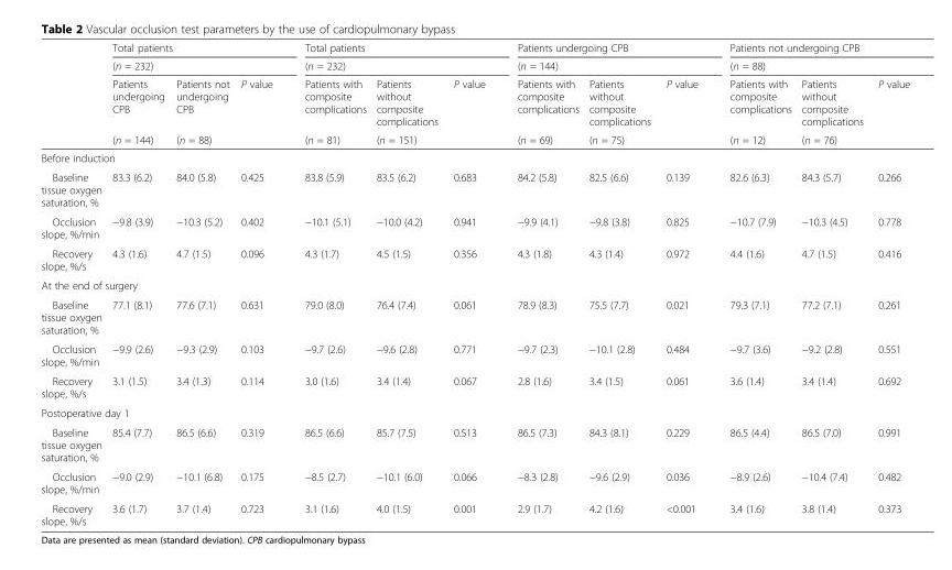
<table><thead><tr><td rowspan="4"></td><td rowspan="2" colspan="3">Total patients (n = 232)</td><td rowspan="2" colspan="3">Total patients (n = 232)</td><td rowspan="2" colspan="3">Patients undergoing CPB (n = 144)</td><td rowspan="2" colspan="3">Patients not undergoing CPB (n = 88)</td></tr><tr></tr><tr><td rowspan="2">Patients undergoing CPB (n = 144)</td><td rowspan="2">Patients not undergoing CPB (n = 88)</td><td rowspan="2">P value</td><td rowspan="2">Patients with composite complications (n = 81)</td><td rowspan="2">Patients without composite complications (n = 151)</td><td rowspan="2">P value</td><td rowspan="2">Patients with composite complications (n = 69)</td><td rowspan="2">Patients without composite complications (n = 75)</td><td rowspan="2">P value</td><td rowspan="2">Patients with composite complications (n = 12)</td><td rowspan="2">Patients without composite complications (n = 76)</td><td rowspan="2">P value</td></tr><tr></tr></thead><tbody><tr><td colspan="13">Before induction</td></tr><tr><td>Baseline tissue oxygen saturation, %</td><td>83.3 (6.2)</td><td>84.0 (5.8)</td><td>0.425</td><td>83.8 (5.9)</td><td>83.5 (6.2)</td><td>0.683</td><td>84.2 (5.8)</td><td>82.5 (6.6)</td><td>0.139</td><td>82.6 (6.3)</td><td>84.3 (5.7)</td><td>0.266</td></tr><tr><td>Occlusion slope, %/min</td><td>−9.8 (3.9)</td><td>−10.3 (5.2)</td><td>0.402</td><td>−10.1 (5.1)</td><td>−10.0 (4.2)</td><td>0.941</td><td>−9.9 (4.1)</td><td>−9.8 (3.8)</td><td>0.825</td><td>−10.7 (7.9)</td><td>−10.3 (4.5)</td><td>0.778</td></tr><tr><td>Recovery slope, %/s</td><td>4.3 (1.6)</td><td>4.7 (1.5)</td><td>0.096</td><td>4.3 (1.7)</td><td>4.5 (1.5)</td><td>0.356</td><td>4.3 (1.8)</td><td>4.3 (1.4)</td><td>0.972</td><td>4.4 (1.6)</td><td>4.7 (1.5)</td><td>0.416</td></tr><tr><td colspan="13">At the end of surgery</td></tr><tr><td>Baseline tissue oxygen saturation, %</td><td>77.1 (8.1)</td><td>77.6 (7.1)</td><td>0.631</td><td>79.0 (8.0)</td><td>76.4 (7.4)</td><td>0.061</td><td>78.9 (8.3)</td><td>75.5 (7.7)</td><td>0.021</td><td>79.3 (7.1)</td><td>77.2 (7.1)</td><td>0.261</td></tr><tr><td>Occlusion slope, %/min</td><td>−9.9 (2.6)</td><td>−9.3 (2.9)</td><td>0.103</td><td>−9.7 (2.6)</td><td>−9.6 (2.8)</td><td>0.771</td><td>−9.7 (2.3)</td><td>−10.1 (2.8)</td><td>0.484</td><td>−9.7 (3.6)</td><td>−9.2 (2.8)</td><td>0.551</td></tr><tr><td>Recovery slope, %/s</td><td>3.1 (1.5)</td><td>3.4 (1.3)</td><td>0.114</td><td>3.0 (1.6)</td><td>3.4 (1.4)</td><td>0.067</td><td>2.8 (1.6)</td><td>3.4 (1.5)</td><td>0.061</td><td>3.6 (1.4)</td><td>3.4 (1.4)</td><td>0.692</td></tr><tr><td colspan="13">Postoperative day 1</td></tr><tr><td>Baseline tissue oxygen saturation, %</td><td>85.4 (7.7)</td><td>86.5 (6.6)</td><td>0.319</td><td>86.5 (6.6)</td><td>85.7 (7.5)</td><td>0.513</td><td>86.5 (7.3)</td><td>84.3 (8.1)</td><td>0.229</td><td>86.5 (4.4)</td><td>86.5 (7.0)</td><td>0.991</td></tr><tr><td>Occlusion slope, %/min</td><td>−9.0 (2.9)</td><td>−10.1 (6.8)</td><td>0.175</td><td>−8.5 (2.7)</td><td>−10.1 (6.0)</td><td>0.066</td><td>−8.3 (2.8)</td><td>−9.6 (2.9)</td><td>0.036</td><td>−8.9 (2.6)</td><td>−10.4 (7.4)</td><td>0.482</td></tr><tr><td>Recovery slope, %/s</td><td>3.6 (1.7)</td><td>3.7 (1.4)</td><td>0.723</td><td>3.1 (1.6)</td><td>4.0 (1.5)</td><td>0.001</td><td>2.9 (1.7)</td><td>4.2 (1.6)</td><td>&lt;0.001</td><td>3.4 (1.6)</td><td>3.8 (1.4)</td><td>0.373</td></tr></tbody></table>